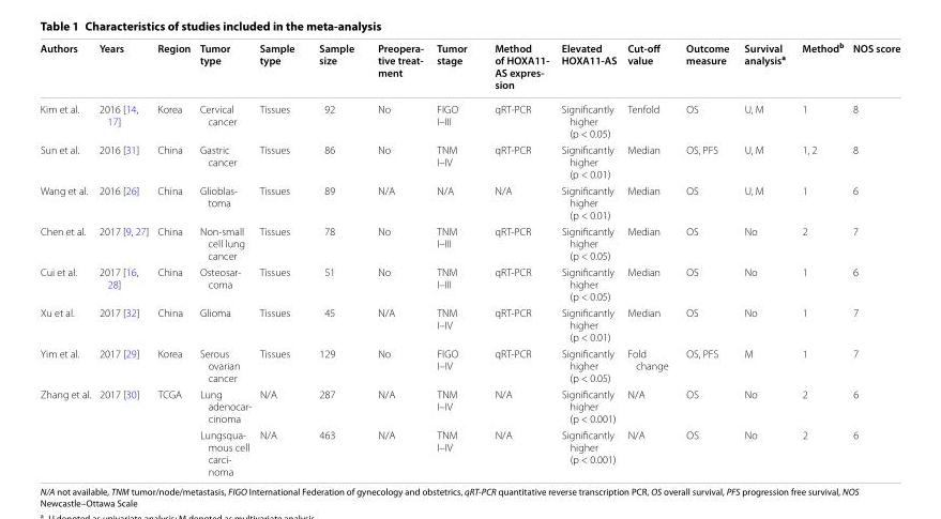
<table><thead><tr><td>Authors</td><td>Years</td><td>Region</td><td>Tumor type</td><td>Sample type</td><td>Sample size</td><td>Preopera‑ tive treat‑ ment</td><td>Tumor stage</td><td>Method of HOXA11‑ AS expres‑ sion</td><td>Elevated HOXA11‑AS</td><td>Cut‑off value</td><td>Outcome measure</td><td>Survival analysis<sup>a</sup></td><td>Method<sup>b</sup></td><td>NOS score</td></tr></thead><tbody><tr><td>Kim et al.</td><td>2016 [14, 17]</td><td>Korea</td><td>Cervical cancer</td><td>Tissues</td><td>92</td><td>No</td><td>FIGO I–III</td><td>qRT-PCR</td><td>Significantly higher (p &lt; 0.05)</td><td>Tenfold</td><td>OS</td><td>U, M</td><td>1</td><td>8</td></tr><tr><td>Sun et al.</td><td>2016 [31]</td><td>China</td><td>Gastric cancer</td><td>Tissues</td><td>86</td><td>No</td><td>TNM I–IV</td><td>qRT-PCR</td><td>Significantly higher (p &lt; 0.01)</td><td>Median</td><td>OS, PFS</td><td>U, M</td><td>1, 2</td><td>8</td></tr><tr><td>Wang et al.</td><td>2016 [26]</td><td>China</td><td>Glioblas- toma</td><td>Tissues</td><td>89</td><td>N/A</td><td>N/A</td><td>N/A</td><td>Significantly higher (p &lt; 0.01)</td><td>Median</td><td>OS</td><td>U, M</td><td>1</td><td>6</td></tr><tr><td>Chen et al.</td><td>2017 [9, 27]</td><td>China</td><td>Non-small cell lung cancer</td><td>Tissues</td><td>78</td><td>No</td><td>TNM I–III</td><td>qRT-PCR</td><td>Significantly higher (p &lt; 0.05)</td><td>Median</td><td>OS</td><td>No</td><td>2</td><td>7</td></tr><tr><td>Cui et al.</td><td>2017 [16, 28]</td><td>China</td><td>Osteosar- coma</td><td>Tissues</td><td>51</td><td>No</td><td>TNM I–III</td><td>qRT-PCR</td><td>Significantly higher (p &lt; 0.05)</td><td>Median</td><td>OS</td><td>No</td><td>1</td><td>6</td></tr><tr><td>Xu et al.</td><td>2017 [32]</td><td>China</td><td>Glioma</td><td>Tissues</td><td>45</td><td>N/A</td><td>TNM I–IV</td><td>qRT-PCR</td><td>Significantly higher (p &lt; 0.01)</td><td>Median</td><td>OS</td><td>No</td><td>1</td><td>7</td></tr><tr><td>Yim et al.</td><td>2017 [29]</td><td>Korea</td><td>Serous ovarian cancer</td><td>Tissues</td><td>129</td><td>No</td><td>FIGO I–IV</td><td>qRT-PCR</td><td>Significantly higher (p &lt; 0.05)</td><td>Fold change</td><td>OS, PFS</td><td>M</td><td>1</td><td>7</td></tr><tr><td rowspan="2">Zhang et al.</td><td rowspan="2">2017 [30]</td><td rowspan="2">TCGA</td><td>Lung adenocar- cinoma</td><td>N/A</td><td>287</td><td>N/A</td><td>TNM I–IV</td><td>N/A</td><td>Significantly higher (p &lt; 0.001)</td><td>N/A</td><td>OS</td><td>No</td><td>2</td><td>6</td></tr><tr><td>Lungsqua- mous cell carci- noma</td><td>N/A</td><td>463</td><td>N/A</td><td>TNM I–IV</td><td>N/A</td><td>Significantly higher (p &lt; 0.001)</td><td>N/A</td><td>OS</td><td>No</td><td>2</td><td>6</td></tr></tbody></table>